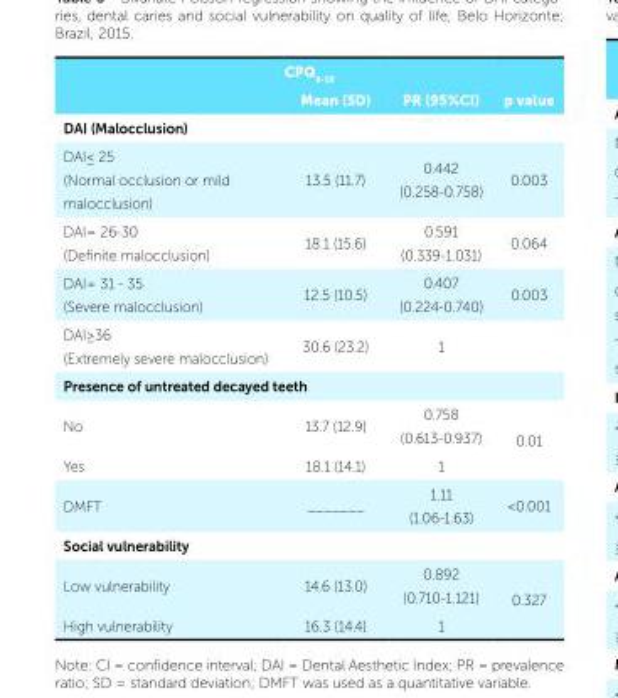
<table><tbody><tr><td colspan="4">CPQ<sub>8-10</sub></td></tr><tr><td></td><td>Mean (SD)</td><td>PR (95%CI)</td><td>p value</td></tr><tr><td colspan="4">DAI (Malocclusion)</td></tr><tr><td>DAI≤ 25 (Normal occlusion or mild malocclusion)</td><td>13.5 (11.7)</td><td>0.442 (0.258-0.758)</td><td>0.003</td></tr><tr><td>DAI= 26-30 (Definite malocclusion)</td><td>18.1 (15.6)</td><td>0.591 (0.339-1.031)</td><td>0.064</td></tr><tr><td>DAI= 31 - 35 (Severe malocclusion)</td><td>12.5 (10.5)</td><td>0.407 (0.224-0.740)</td><td>0.003</td></tr><tr><td>DAI≥36 (Extremely severe malocclusion)</td><td>30.6 (23.2)</td><td>1</td><td></td></tr><tr><td colspan="4">Presence of untreated decayed teeth</td></tr><tr><td>No</td><td>13.7 (12.9)</td><td>0.758 (0.613-0.937)</td><td rowspan="2">0.01</td></tr><tr><td>Yes</td><td>18.1 (14.1)</td><td>1</td></tr><tr><td>DMFT</td><td>_______</td><td>1.11 (1.06-1.63)</td><td>&lt;0.001</td></tr><tr><td colspan="4">Social vulnerability</td></tr><tr><td>Low vulnerability</td><td>14.6 (13.0)</td><td>0.892 (0.710-1.121)</td><td rowspan="2">0.327</td></tr><tr><td>High vulnerability</td><td>16.3 (14.4)</td><td>1</td></tr></tbody></table>